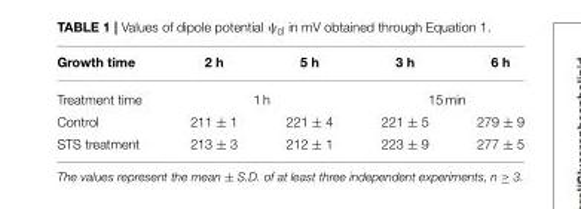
<table><thead><tr><td>Growth time</td><td>2 h</td><td>5 h</td><td>3 h</td><td>6 h</td></tr></thead><tbody><tr><td>Treatment time</td><td colspan="2">1 h</td><td colspan="2">15 min</td></tr><tr><td>Control</td><td>211 ± 1</td><td>221 ± 4</td><td>221 ± 5</td><td>279 ± 9</td></tr><tr><td>STS treatment</td><td>213 ± 3</td><td>212 ± 1</td><td>223 ± 9</td><td>277 ± 5</td></tr></tbody></table>